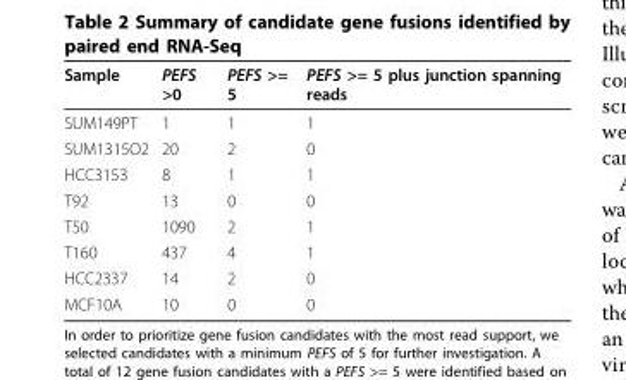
<table><thead><tr><td>Sample</td><td>PEFS &gt;0</td><td>PEFS &gt;= 5</td><td>PEFS &gt;= 5 plus junction spanning reads</td></tr></thead><tbody><tr><td>SUM149PT</td><td>1</td><td>1</td><td>1</td></tr><tr><td>SUM1315O2</td><td>20</td><td>2</td><td>0</td></tr><tr><td>HCC3153</td><td>8</td><td>1</td><td>1</td></tr><tr><td>T92</td><td>13</td><td>0</td><td>0</td></tr><tr><td>T50</td><td>1090</td><td>2</td><td>1</td></tr><tr><td>T160</td><td>437</td><td>4</td><td>1</td></tr><tr><td>HCC2337</td><td>14</td><td>2</td><td>0</td></tr><tr><td>MCF10A</td><td>10</td><td>0</td><td>0</td></tr></tbody></table>